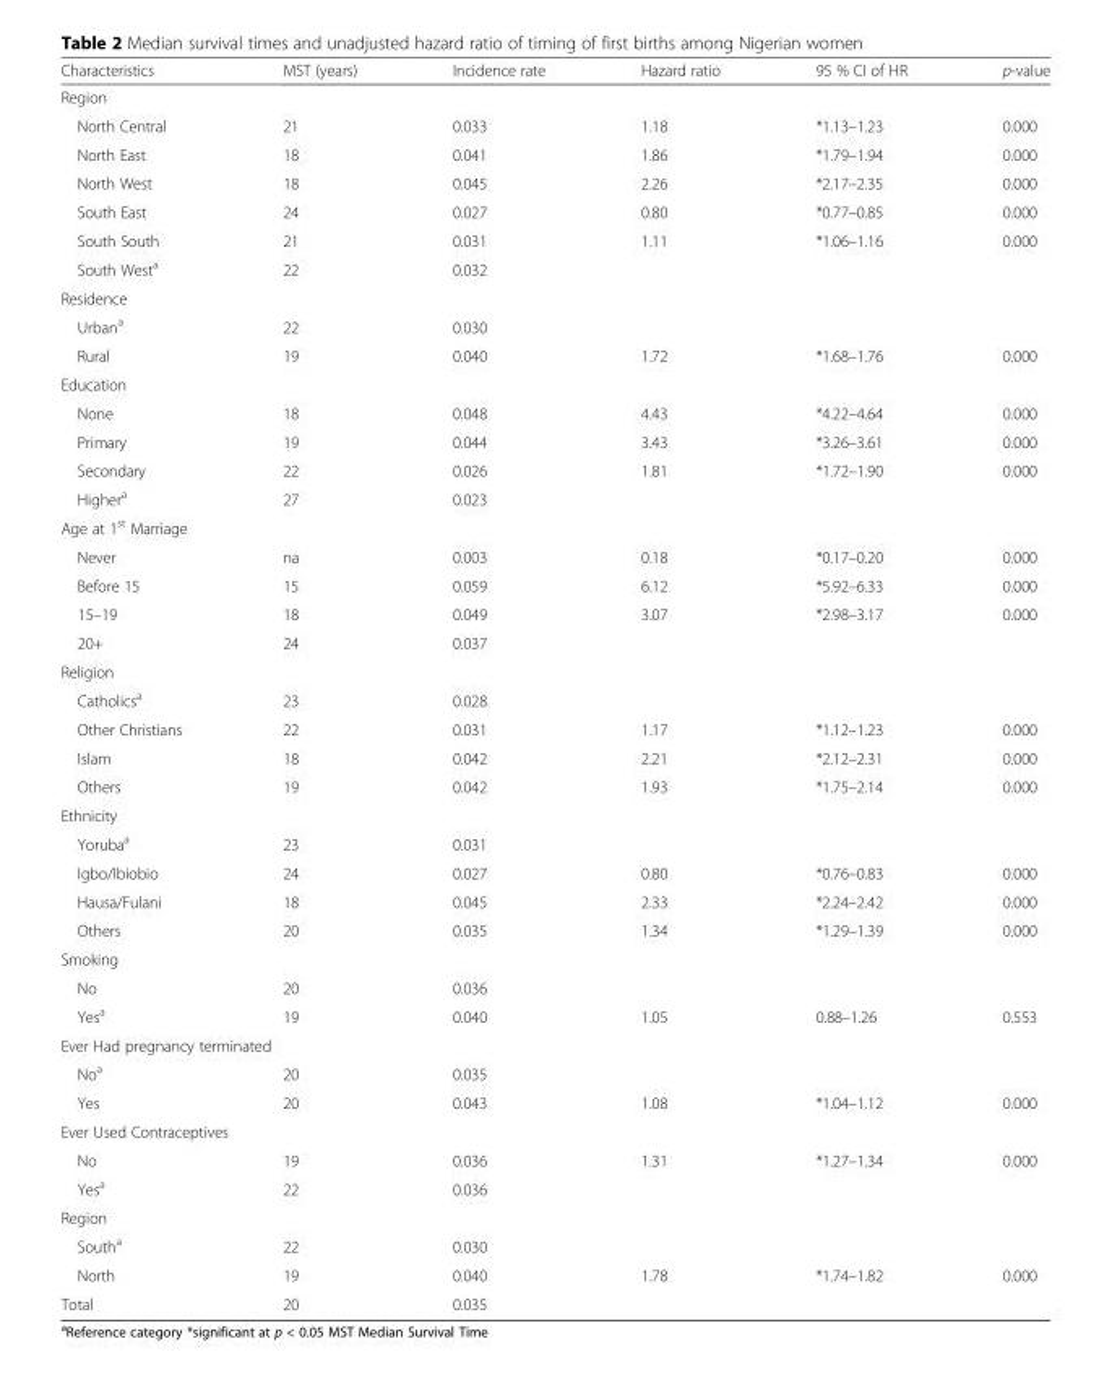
<table><thead><tr><td>Characteristics</td><td>MST (years)</td><td>Incidence rate</td><td>Hazard ratio</td><td>95 % CI of HR</td><td>p-value</td></tr></thead><tbody><tr><td colspan="6">Region</td></tr><tr><td>North Central</td><td>21</td><td>0.033</td><td>1.18</td><td>*1.13–1.23</td><td>0.000</td></tr><tr><td>North East</td><td>18</td><td>0.041</td><td>1.86</td><td>*1.79–1.94</td><td>0.000</td></tr><tr><td>North West</td><td>18</td><td>0.045</td><td>2.26</td><td>*2.17–2.35</td><td>0.000</td></tr><tr><td>South East</td><td>24</td><td>0.027</td><td>0.80</td><td>*0.77–0.85</td><td>0.000</td></tr><tr><td>South South</td><td>21</td><td>0.031</td><td>1.11</td><td>*1.06–1.16</td><td>0.000</td></tr><tr><td>South West<sup>a</sup></td><td>22</td><td>0.032</td><td></td><td></td><td></td></tr><tr><td colspan="6">Residence</td></tr><tr><td>Urban<sup>a</sup></td><td>22</td><td>0.030</td><td></td><td></td><td></td></tr><tr><td>Rural</td><td>19</td><td>0.040</td><td>1.72</td><td>*1.68–1.76</td><td>0.000</td></tr><tr><td colspan="6">Education</td></tr><tr><td>None</td><td>18</td><td>0.048</td><td>4.43</td><td>*4.22–4.64</td><td>0.000</td></tr><tr><td>Primary</td><td>19</td><td>0.044</td><td>3.43</td><td>*3.26–3.61</td><td>0.000</td></tr><tr><td>Secondary</td><td>22</td><td>0.026</td><td>1.81</td><td>*1.72–1.90</td><td>0.000</td></tr><tr><td>Higher<sup>a</sup></td><td>27</td><td>0.023</td><td></td><td></td><td></td></tr><tr><td colspan="6">Age at 1<sup>st</sup> Marriage</td></tr><tr><td>Never</td><td>na</td><td>0.003</td><td>0.18</td><td>*0.17–0.20</td><td>0.000</td></tr><tr><td>Before 15</td><td>15</td><td>0.059</td><td>6.12</td><td>*5.92–6.33</td><td>0.000</td></tr><tr><td>15–19</td><td>18</td><td>0.049</td><td>3.07</td><td>*2.98–3.17</td><td>0.000</td></tr><tr><td>20+</td><td>24</td><td>0.037</td><td></td><td></td><td></td></tr><tr><td colspan="6">Religion</td></tr><tr><td>Catholics<sup>a</sup></td><td>23</td><td>0.028</td><td></td><td></td><td></td></tr><tr><td>Other Christians</td><td>22</td><td>0.031</td><td>1.17</td><td>*1.12–1.23</td><td>0.000</td></tr><tr><td>Islam</td><td>18</td><td>0.042</td><td>2.21</td><td>*2.12–2.31</td><td>0.000</td></tr><tr><td>Others</td><td>19</td><td>0.042</td><td>1.93</td><td>*1.75–2.14</td><td>0.000</td></tr><tr><td colspan="6">Ethnicity</td></tr><tr><td>Yoruba<sup>a</sup></td><td>23</td><td>0.031</td><td></td><td></td><td></td></tr><tr><td>Igbo/Ibiobio</td><td>24</td><td>0.027</td><td>0.80</td><td>*0.76–0.83</td><td>0.000</td></tr><tr><td>Hausa/Fulani</td><td>18</td><td>0.045</td><td>2.33</td><td>*2.24–2.42</td><td>0.000</td></tr><tr><td>Others</td><td>20</td><td>0.035</td><td>1.34</td><td>*1.29–1.39</td><td>0.000</td></tr><tr><td colspan="6">Smoking</td></tr><tr><td>No</td><td>20</td><td>0.036</td><td></td><td></td><td></td></tr><tr><td>Yes<sup>a</sup></td><td>19</td><td>0.040</td><td>1.05</td><td>0.88–1.26</td><td>0.553</td></tr><tr><td colspan="6">Ever Had pregnancy terminated</td></tr><tr><td>No<sup>a</sup></td><td>20</td><td>0.035</td><td></td><td></td><td></td></tr><tr><td>Yes</td><td>20</td><td>0.043</td><td>1.08</td><td>*1.04–1.12</td><td>0.000</td></tr><tr><td colspan="6">Ever Used Contraceptives</td></tr><tr><td>No</td><td>19</td><td>0.036</td><td>1.31</td><td>*1.27–1.34</td><td>0.000</td></tr><tr><td>Yes<sup>a</sup></td><td>22</td><td>0.036</td><td></td><td></td><td></td></tr><tr><td colspan="6">Region</td></tr><tr><td>South<sup>a</sup></td><td>22</td><td>0.030</td><td></td><td></td><td></td></tr><tr><td>North</td><td>19</td><td>0.040</td><td>1.78</td><td>*1.74–1.82</td><td>0.000</td></tr><tr><td>Total</td><td>20</td><td>0.035</td><td></td><td></td><td></td></tr></tbody></table>